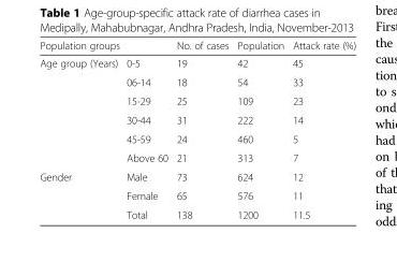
<table><thead><tr><td colspan="2">Population groups</td><td rowspan="2">No. of cases 19</td><td rowspan="2">Population 42</td><td rowspan="2">Attack rate (%) 45</td></tr><tr><td>Age group (Years)</td><td>0-5</td></tr></thead><tbody><tr><td></td><td>06-14</td><td>18</td><td>54</td><td>33</td></tr><tr><td></td><td>15-29</td><td>25</td><td>109</td><td>23</td></tr><tr><td></td><td>30-44</td><td>31</td><td>222</td><td>14</td></tr><tr><td></td><td>45-59</td><td>24</td><td>460</td><td>5</td></tr><tr><td></td><td>Above 60</td><td>21</td><td>313</td><td>7</td></tr><tr><td rowspan="3">Gender</td><td>Male</td><td>73</td><td>624</td><td>12</td></tr><tr><td>Female</td><td>65</td><td>576</td><td>11</td></tr><tr><td>Total</td><td>138</td><td>1200</td><td>11.5</td></tr></tbody></table>